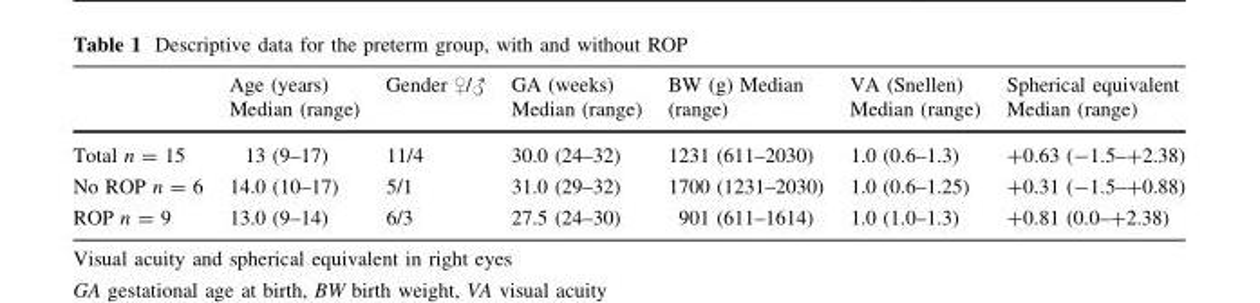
<table><thead><tr><td></td><td>Age (years) Median (range)</td><td>Gender $/#</td><td>GA (weeks) Median (range)</td><td>BW (g) Median (range)</td><td>VA (Snellen) Median (range)</td><td>Spherical equivalent Median (range)</td></tr></thead><tbody><tr><td>Total n = 15</td><td>13 (9–17)</td><td>11/4</td><td>30.0 (24–32)</td><td>1231 (611–2030)</td><td>1.0 (0.6–1.3)</td><td>+0.63 (-1.5–+2.38)</td></tr><tr><td>No ROP n = 6</td><td>14.0 (10–17)</td><td>5/1</td><td>31.0 (29–32)</td><td>1700 (1231–2030)</td><td>1.0 (0.6–1.25)</td><td>+0.31 (-1.5–+0.88)</td></tr><tr><td>ROP n = 9</td><td>13.0 (9–14)</td><td>6/3</td><td>27.5 (24–30)</td><td>901 (611–1614)</td><td>1.0 (1.0–1.3)</td><td>+0.81 (0.0–+2.38)</td></tr></tbody></table>